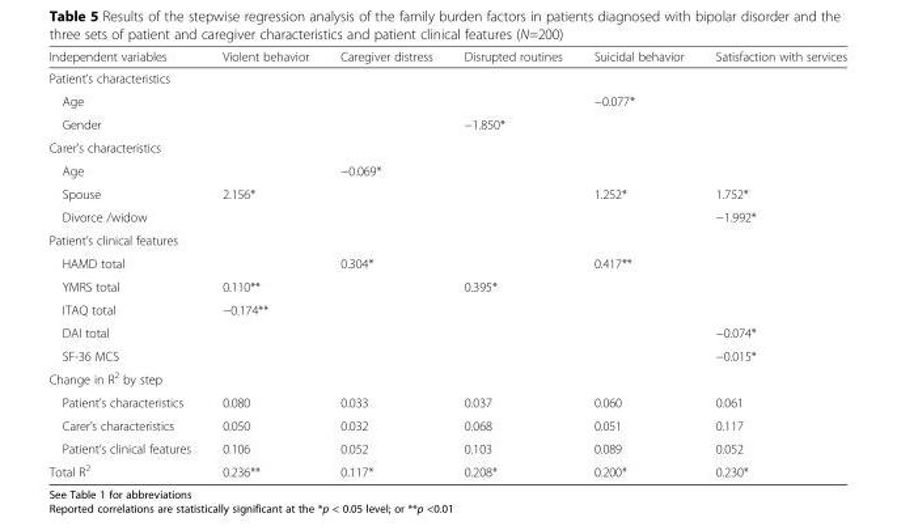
<table><thead><tr><td>Independent variables</td><td>Violent behavior</td><td>Caregiver distress</td><td>Disrupted routines</td><td>Suicidal behavior</td><td>Satisfaction with services</td></tr></thead><tbody><tr><td colspan="6">Patient’s characteristics</td></tr><tr><td>Age</td><td></td><td></td><td></td><td>−0.077*</td><td></td></tr><tr><td>Gender</td><td></td><td></td><td>−1.850*</td><td></td><td></td></tr><tr><td colspan="6">Carer’s characteristics</td></tr><tr><td>Age</td><td></td><td>−0.069*</td><td></td><td></td><td></td></tr><tr><td>Spouse</td><td>2.156*</td><td></td><td></td><td>1.252*</td><td>1.752*</td></tr><tr><td>Divorce /widow</td><td></td><td></td><td></td><td></td><td>−1.992*</td></tr><tr><td colspan="6">Patient’s clinical features</td></tr><tr><td>HAMD total</td><td></td><td>0.304*</td><td></td><td>0.417**</td><td></td></tr><tr><td>YMRS total</td><td>0.110**</td><td></td><td>0.395*</td><td></td><td></td></tr><tr><td>ITAQ total</td><td>−0.174**</td><td></td><td></td><td></td><td></td></tr><tr><td>DAI total</td><td></td><td></td><td></td><td></td><td>−0.074*</td></tr><tr><td>SF-36 MCS</td><td></td><td></td><td></td><td></td><td>−0.015*</td></tr><tr><td colspan="6">Change in R<sup>2</sup> by step</td></tr><tr><td>Patient’s characteristics</td><td>0.080</td><td>0.033</td><td>0.037</td><td>0.060</td><td>0.061</td></tr><tr><td>Carer’s characteristics</td><td>0.050</td><td>0.032</td><td>0.068</td><td>0.051</td><td>0.117</td></tr><tr><td>Patient’s clinical features</td><td>0.106</td><td>0.052</td><td>0.103</td><td>0.089</td><td>0.052</td></tr><tr><td>Total R<sup>2</sup></td><td>0.236**</td><td>0.117*</td><td>0.208*</td><td>0.200*</td><td>0.230*</td></tr></tbody></table>